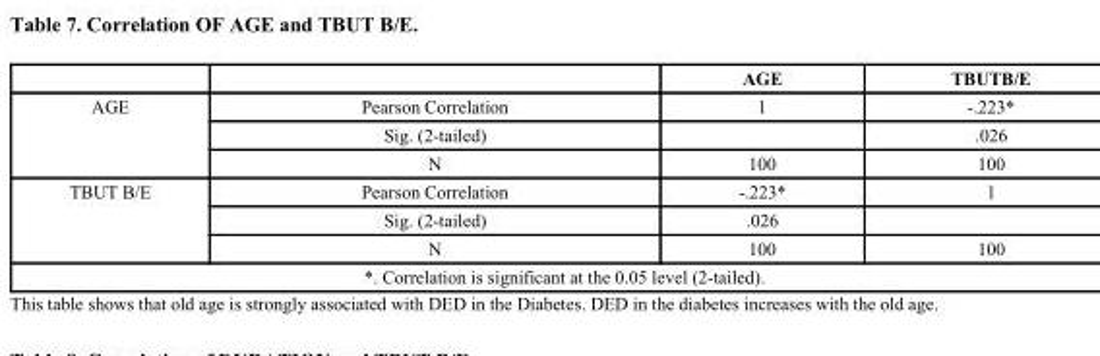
<table><thead><tr><td></td><td></td><td>AGE</td><td>TBUTB/E</td></tr></thead><tbody><tr><td rowspan="3">AGE</td><td>Pearson Correlation</td><td>1</td><td>-.223*</td></tr><tr><td>Sig. (2-tailed)</td><td></td><td>.026</td></tr><tr><td>N</td><td>100</td><td>100</td></tr><tr><td rowspan="3">TBUT B/E</td><td>Pearson Correlation</td><td>-.223*</td><td>1</td></tr><tr><td>Sig. (2-tailed)</td><td>.026</td><td></td></tr><tr><td>N</td><td>100</td><td>100</td></tr><tr><td colspan="4">*. Correlation is significant at the 0.05 level (2-tailed).</td></tr></tbody></table>